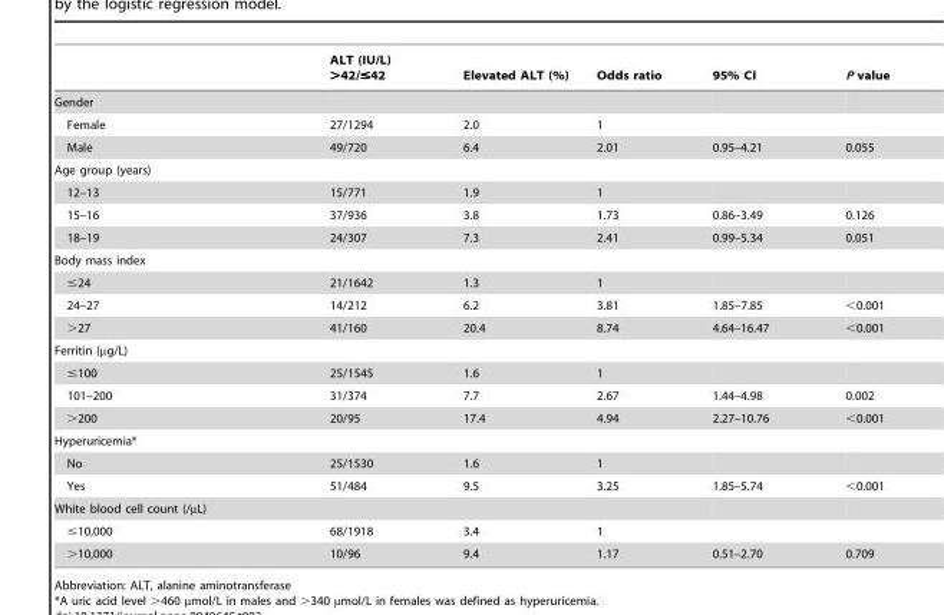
<table><thead><tr><td></td><td>ALT (IU/L) &gt;42/≤42</td><td>Elevated ALT (%)</td><td>Odds ratio</td><td>95% CI</td><td>P value</td></tr></thead><tbody><tr><td colspan="6">Gender</td></tr><tr><td>Female</td><td>27/1294</td><td>2.0</td><td>1</td><td></td><td></td></tr><tr><td>Male</td><td>49/720</td><td>6.4</td><td>2.01</td><td>0.95–4.21</td><td>0.055</td></tr><tr><td colspan="6">Age group (years)</td></tr><tr><td>12–13</td><td>15/771</td><td>1.9</td><td>1</td><td></td><td></td></tr><tr><td>15–16</td><td>37/936</td><td>3.8</td><td>1.73</td><td>0.86–3.49</td><td>0.126</td></tr><tr><td>18–19</td><td>24/307</td><td>7.3</td><td>2.41</td><td>0.99–5.34</td><td>0.051</td></tr><tr><td colspan="6">Body mass index</td></tr><tr><td>≤24</td><td>21/1642</td><td>1.3</td><td>1</td><td></td><td></td></tr><tr><td>24–27</td><td>14/212</td><td>6.2</td><td>3.81</td><td>1.85–7.85</td><td>&lt;0.001</td></tr><tr><td>&gt;27</td><td>41/160</td><td>20.4</td><td>8.74</td><td>4.64–16.47</td><td>&lt;0.001</td></tr><tr><td colspan="6">Ferritin (µg/L)</td></tr><tr><td>≤100</td><td>25/1545</td><td>1.6</td><td>1</td><td></td><td></td></tr><tr><td>101–200</td><td>31/374</td><td>7.7</td><td>2.67</td><td>1.44–4.98</td><td>0.002</td></tr><tr><td>&gt;200</td><td>20/95</td><td>17.4</td><td>4.94</td><td>2.27–10.76</td><td>&lt;0.001</td></tr><tr><td colspan="6">Hyperuricemia*</td></tr><tr><td>No</td><td>25/1530</td><td>1.6</td><td>1</td><td></td><td></td></tr><tr><td>Yes</td><td>51/484</td><td>9.5</td><td>3.25</td><td>1.85–5.74</td><td>&lt;0.001</td></tr><tr><td colspan="6">White blood cell count (/µL)</td></tr><tr><td>≤10,000</td><td>68/1918</td><td>3.4</td><td>1</td><td></td><td></td></tr><tr><td>&gt;10,000</td><td>10/96</td><td>9.4</td><td>1.17</td><td>0.51–2.70</td><td>0.709</td></tr></tbody></table>